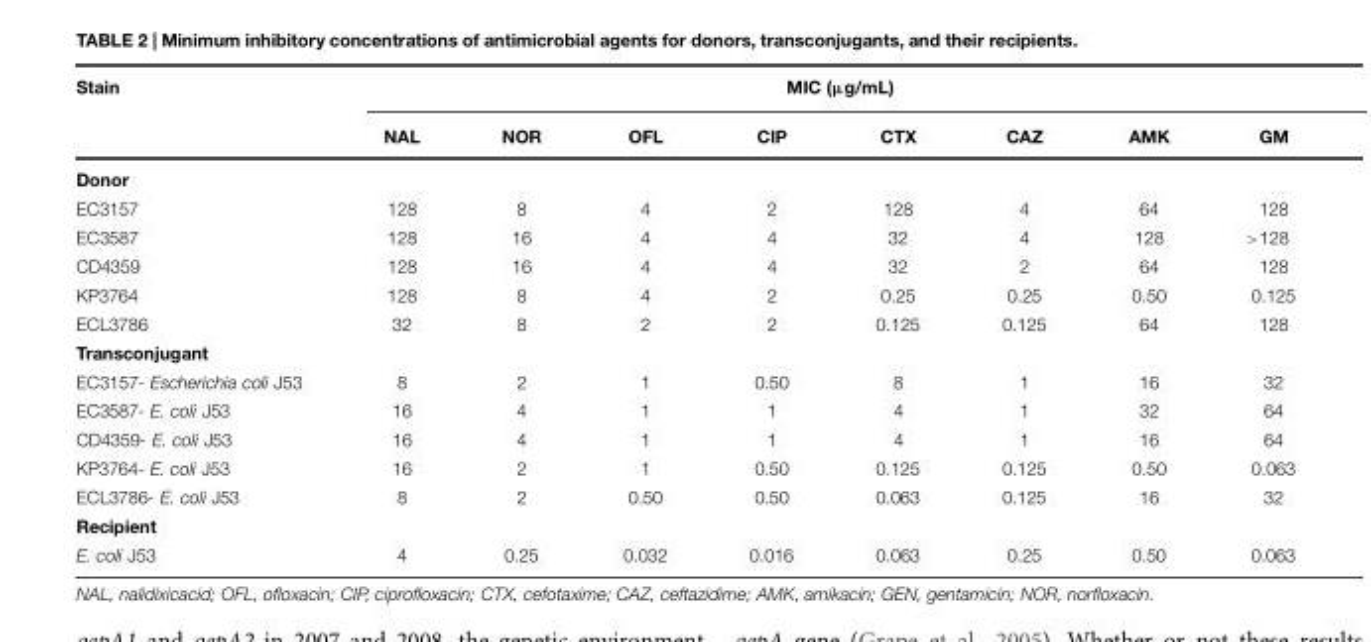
<table><thead><tr><td rowspan="2">Stain</td><td colspan="8">MIC (µg/mL)</td></tr><tr><td>NAL</td><td>NOR</td><td>OFL</td><td>CIP</td><td>CTX</td><td>CAZ</td><td>AMK</td><td>GM</td></tr></thead><tbody><tr><td colspan="9">Donor</td></tr><tr><td>EC3157</td><td>128</td><td>8</td><td>4</td><td>2</td><td>128</td><td>4</td><td>64</td><td>128</td></tr><tr><td>EC3587</td><td>128</td><td>16</td><td>4</td><td>4</td><td>32</td><td>4</td><td>128</td><td>&gt;128</td></tr><tr><td>CD4359</td><td>128</td><td>16</td><td>4</td><td>4</td><td>32</td><td>2</td><td>64</td><td>128</td></tr><tr><td>KP3764</td><td>128</td><td>8</td><td>4</td><td>2</td><td>0.25</td><td>0.25</td><td>0.50</td><td>0.125</td></tr><tr><td>ECL3786</td><td>32</td><td>8</td><td>2</td><td>2</td><td>0.125</td><td>0.125</td><td>64</td><td>128</td></tr><tr><td colspan="9">Transconjugant</td></tr><tr><td>EC3157- Escherichia coli J53</td><td>8</td><td>2</td><td>1</td><td>0.50</td><td>8</td><td>1</td><td>16</td><td>32</td></tr><tr><td>EC3587- E. coli J53</td><td>16</td><td>4</td><td>1</td><td>1</td><td>4</td><td>1</td><td>32</td><td>64</td></tr><tr><td>CD4359- E. coli J53</td><td>16</td><td>4</td><td>1</td><td>1</td><td>4</td><td>1</td><td>16</td><td>64</td></tr><tr><td>KP3764- E. coli J53</td><td>16</td><td>2</td><td>1</td><td>0.50</td><td>0.125</td><td>0.125</td><td>0.50</td><td>0.063</td></tr><tr><td>ECL3786- E. coli J53</td><td>8</td><td>2</td><td>0.50</td><td>0.50</td><td>0.063</td><td>0.125</td><td>16</td><td>32</td></tr><tr><td colspan="9">Recipient</td></tr><tr><td>E. coli J53</td><td>4</td><td>0.25</td><td>0.032</td><td>0.016</td><td>0.063</td><td>0.25</td><td>0.50</td><td>0.063</td></tr></tbody></table>